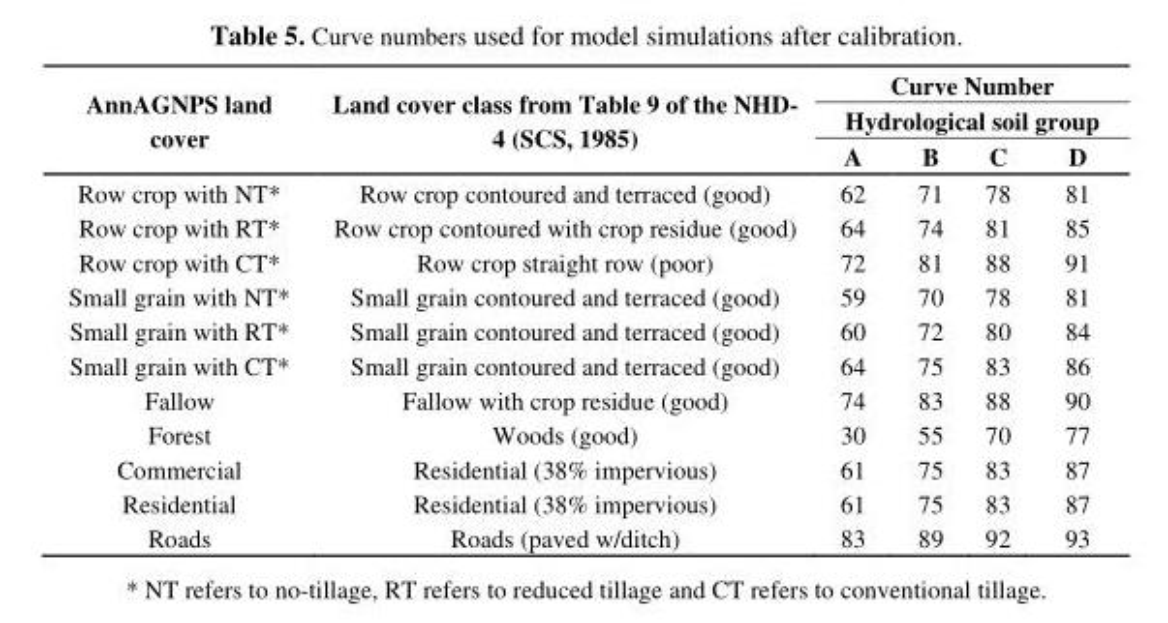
<table><thead><tr><td rowspan="3">AnnAGNPS land cover</td><td rowspan="3">Land cover class from Table 9 of the NHD- 4 (SCS, 1985)</td><td rowspan="2" colspan="4">Curve Number Hydrological soil group</td></tr><tr></tr><tr><td>A</td><td>B</td><td>C</td><td>D</td></tr></thead><tbody><tr><td>Row crop with NT*</td><td>Row crop contoured and terraced (good)</td><td>62</td><td>71</td><td>78</td><td>81</td></tr><tr><td>Row crop with RT*</td><td>Row crop contoured with crop residue (good)</td><td>64</td><td>74</td><td>81</td><td>85</td></tr><tr><td>Row crop with CT*</td><td>Row crop straight row (poor)</td><td>72</td><td>81</td><td>88</td><td>91</td></tr><tr><td>Small grain with NT*</td><td>Small grain contoured and terraced (good)</td><td>59</td><td>70</td><td>78</td><td>81</td></tr><tr><td>Small grain with RT*</td><td>Small grain contoured and terraced (good)</td><td>60</td><td>72</td><td>80</td><td>84</td></tr><tr><td>Small grain with CT*</td><td>Small grain contoured and terraced (good)</td><td>64</td><td>75</td><td>83</td><td>86</td></tr><tr><td>Fallow</td><td>Fallow with crop residue (good)</td><td>74</td><td>83</td><td>88</td><td>90</td></tr><tr><td>Forest</td><td>Woods (good)</td><td>30</td><td>55</td><td>70</td><td>77</td></tr><tr><td>Commercial</td><td>Residential (38% impervious)</td><td>61</td><td>75</td><td>83</td><td>87</td></tr><tr><td>Residential</td><td>Residential (38% impervious)</td><td>61</td><td>75</td><td>83</td><td>87</td></tr><tr><td>Roads</td><td>Roads (paved w/ditch)</td><td>83</td><td>89</td><td>92</td><td>93</td></tr></tbody></table>